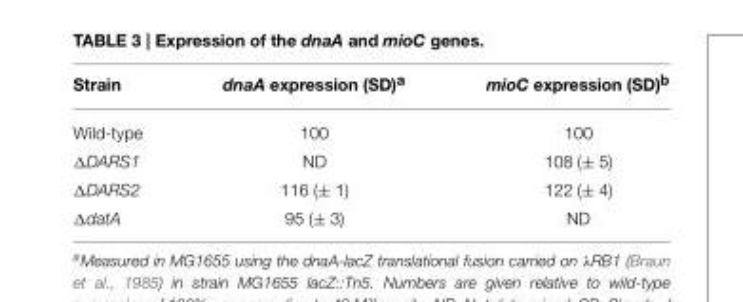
<table><thead><tr><td>Strain</td><td>dnaA expression (SD)<sup>a</sup></td><td>mioC expression (SD)<sup>b</sup></td></tr></thead><tbody><tr><td>Wild-type</td><td>100</td><td>100</td></tr><tr><td>ΔDARS1</td><td>ND</td><td>108 (± 5)</td></tr><tr><td>ΔDARS2</td><td>116 (± 1)</td><td>122 (± 4)</td></tr><tr><td>ΔdatA</td><td>95 (± 3)</td><td>ND</td></tr></tbody></table>